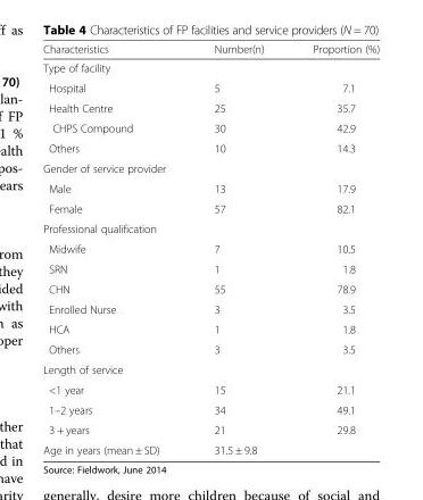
<table><thead><tr><td>Characteristics</td><td>Number(n)</td><td>Proportion (%)</td></tr></thead><tbody><tr><td colspan="3">Type of facility</td></tr><tr><td>Hospital</td><td>5</td><td>7.1</td></tr><tr><td>Health Centre</td><td>25</td><td>35.7</td></tr><tr><td>CHPS Compound</td><td>30</td><td>42.9</td></tr><tr><td>Others</td><td>10</td><td>14.3</td></tr><tr><td colspan="3">Gender of service provider</td></tr><tr><td>Male</td><td>13</td><td>17.9</td></tr><tr><td>Female</td><td>57</td><td>82.1</td></tr><tr><td colspan="3">Professional qualification</td></tr><tr><td>Midwife</td><td>7</td><td>10.5</td></tr><tr><td>SRN</td><td>1</td><td>1.8</td></tr><tr><td>CHN</td><td>55</td><td>78.9</td></tr><tr><td>Enrolled Nurse</td><td>3</td><td>3.5</td></tr><tr><td>HCA</td><td>1</td><td>1.8</td></tr><tr><td>Others</td><td>3</td><td>3.5</td></tr><tr><td colspan="3">Length of service</td></tr><tr><td>&lt;1 year</td><td>15</td><td>21.1</td></tr><tr><td>1–2 years</td><td>34</td><td>49.1</td></tr><tr><td>3 + years</td><td>21</td><td>29.8</td></tr><tr><td>Age in years (mean ± SD)</td><td colspan="2">31.5 ± 9.8</td></tr></tbody></table>